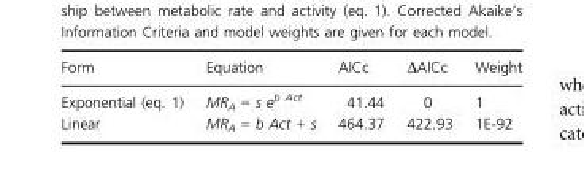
<table><thead><tr><td>Form</td><td>Equation</td><td>AICc</td><td>ΔAICc</td><td>Weight</td></tr></thead><tbody><tr><td>Exponential (eq. 1)</td><td>MR<sub>A</sub> = s e<sup>b Act</sup></td><td>41.44</td><td>0</td><td>1</td></tr><tr><td>Linear</td><td>MR<sub>A</sub> = b Act + s</td><td>464.37</td><td>422.93</td><td>1E-92</td></tr></tbody></table>